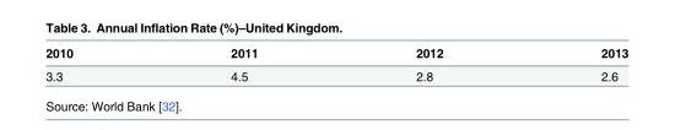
<table><thead><tr><td>2010</td><td>2011</td><td>2012</td><td>2013</td></tr></thead><tbody><tr><td>3.3</td><td>4.5</td><td>2.8</td><td>2.6</td></tr></tbody></table>